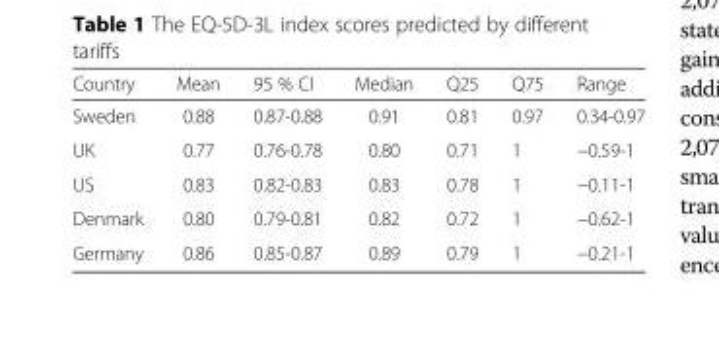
<table><thead><tr><td>Country</td><td>Mean</td><td>95 % CI</td><td>Median</td><td>Q25</td><td>Q75</td><td>Range</td></tr></thead><tbody><tr><td>Sweden</td><td>0.88</td><td>0.87-0.88</td><td>0.91</td><td>0.81</td><td>0.97</td><td>0.34-0.97</td></tr><tr><td>UK</td><td>0.77</td><td>0.76-0.78</td><td>0.80</td><td>0.71</td><td>1</td><td>−0.59-1</td></tr><tr><td>US</td><td>0.83</td><td>0.82-0.83</td><td>0.83</td><td>0.78</td><td>1</td><td>−0.11-1</td></tr><tr><td>Denmark</td><td>0.80</td><td>0.79-0.81</td><td>0.82</td><td>0.72</td><td>1</td><td>−0.62-1</td></tr><tr><td>Germany</td><td>0.86</td><td>0.85-0.87</td><td>0.89</td><td>0.79</td><td>1</td><td>−0.21-1</td></tr></tbody></table>